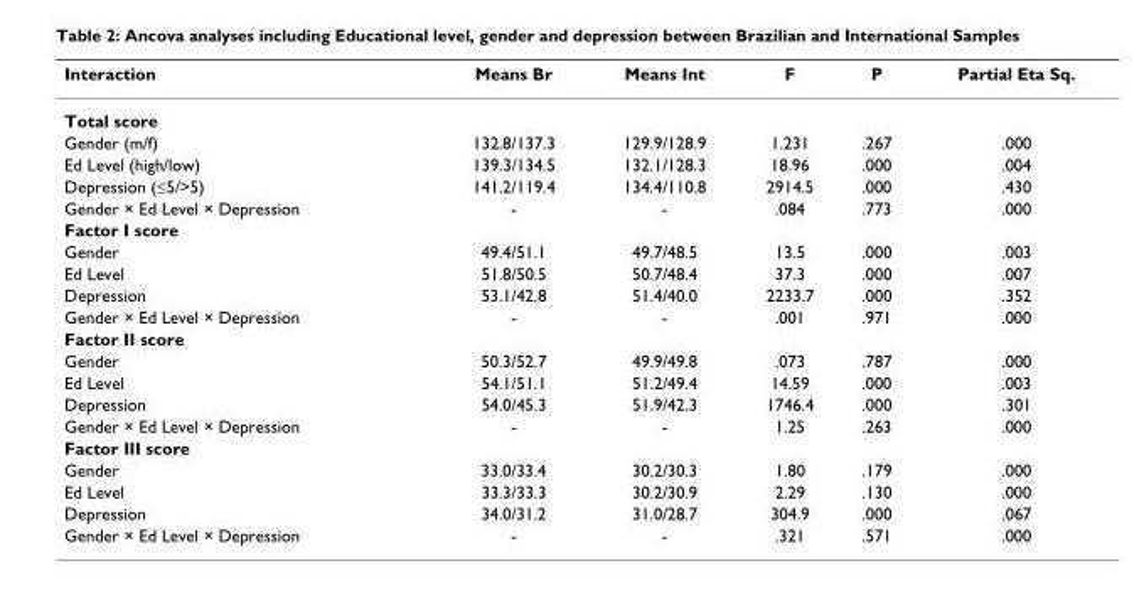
<table><thead><tr><td>Interaction</td><td>Means Br</td><td>Means Int</td><td>F</td><td>P</td><td>Partial Eta Sq.</td></tr></thead><tbody><tr><td colspan="6">Total score</td></tr><tr><td>Gender (m/f)</td><td>132.8/137.3</td><td>129.9/128.9</td><td>1.231</td><td>.267</td><td>.000</td></tr><tr><td>Ed Level (high/low)</td><td>139.3/134.5</td><td>132.1/128.3</td><td>18.96</td><td>.000</td><td>.004</td></tr><tr><td>Depression (≤5/&gt;5)</td><td>141.2/119.4</td><td>134.4/110.8</td><td>2914.5</td><td>.000</td><td>.430</td></tr><tr><td>Gender × Ed Level × Depression</td><td>-</td><td>-</td><td>.084</td><td>.773</td><td>.000</td></tr><tr><td colspan="6">Factor I score</td></tr><tr><td>Gender</td><td>49.4/51.1</td><td>49.7/48.5</td><td>13.5</td><td>.000</td><td>.003</td></tr><tr><td>Ed Level</td><td>51.8/50.5</td><td>50.7/48.4</td><td>37.3</td><td>.000</td><td>.007</td></tr><tr><td>Depression</td><td>53.1/42.8</td><td>51.4/40.0</td><td>2233.7</td><td>.000</td><td>.352</td></tr><tr><td>Gender × Ed Level × Depression</td><td>-</td><td>-</td><td>.001</td><td>.971</td><td>.000</td></tr><tr><td colspan="6">Factor II score</td></tr><tr><td>Gender</td><td>50.3/52.7</td><td>49.9/49.8</td><td>.073</td><td>.787</td><td>.000</td></tr><tr><td>Ed Level</td><td>54.1/51.1</td><td>51.2/49.4</td><td>14.59</td><td>.000</td><td>.003</td></tr><tr><td>Depression</td><td>54.0/45.3</td><td>51.9/42.3</td><td>1746.4</td><td>.000</td><td>.301</td></tr><tr><td>Gender × Ed Level × Depression</td><td>-</td><td>-</td><td>1.25</td><td>.263</td><td>.000</td></tr><tr><td colspan="6">Factor III score</td></tr><tr><td>Gender</td><td>33.0/33.4</td><td>30.2/30.3</td><td>1.80</td><td>.179</td><td>.000</td></tr><tr><td>Ed Level</td><td>33.3/33.3</td><td>30.2/30.9</td><td>2.29</td><td>.130</td><td>.000</td></tr><tr><td>Depression</td><td>34.0/31.2</td><td>31.0/28.7</td><td>304.9</td><td>.000</td><td>.067</td></tr><tr><td>Gender × Ed Level × Depression</td><td>-</td><td>-</td><td>.321</td><td>.571</td><td>.000</td></tr></tbody></table>